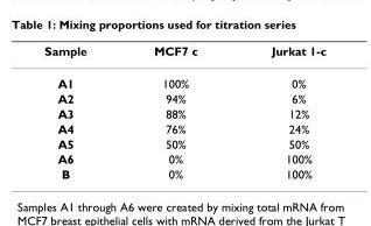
<table><thead><tr><td>Sample</td><td>MCF7 c</td><td>Jurkat 1-c</td></tr></thead><tbody><tr><td>A1</td><td>100%</td><td>0%</td></tr><tr><td>A2</td><td>94%</td><td>6%</td></tr><tr><td>A3</td><td>88%</td><td>12%</td></tr><tr><td>A4</td><td>76%</td><td>24%</td></tr><tr><td>A5</td><td>50%</td><td>50%</td></tr><tr><td>A6</td><td>0%</td><td>100%</td></tr><tr><td>B</td><td>0%</td><td>100%</td></tr></tbody></table>